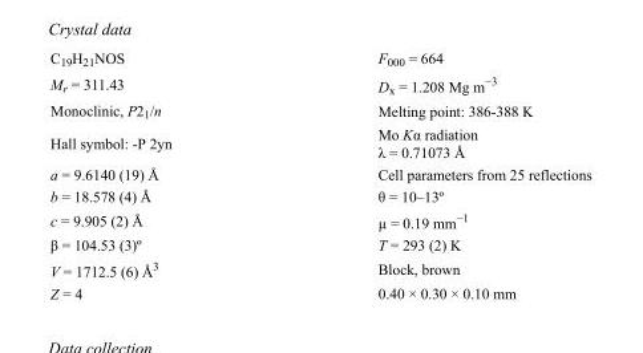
<table><tbody><tr><td>C<sub>19</sub>H<sub>21</sub>NOS</td><td>F<sub>000</sub> = 664</td></tr><tr><td>M<sub>r</sub> = 311.43</td><td>D<sub>x</sub> = 1.208 Mg m<sup>−3</sup></td></tr><tr><td>Monoclinic, P2<sub>1</sub>/n</td><td>Melting point= 386-388 K</td></tr><tr><td>Hall symbol: -P 2yn</td><td>Mo Kα radiation λ = 0.71073 Å</td></tr><tr><td>a = 9.6140 (19) Å</td><td>Cell parameters from 25 reflections</td></tr><tr><td>b = 18.578 (4) Å</td><td>θ = 10–13º</td></tr><tr><td>c = 9.905 (2) Å</td><td>µ = 0.19 mm<sup>−1</sup></td></tr><tr><td>β = 104.53 (3)º</td><td>T = 293 (2) K</td></tr><tr><td>V = 1712.5 (6) Å<sup>3</sup></td><td>Block, brown</td></tr><tr><td>Z = 4</td><td>0.40 × 0.30 × 0.10 mm</td></tr></tbody></table>